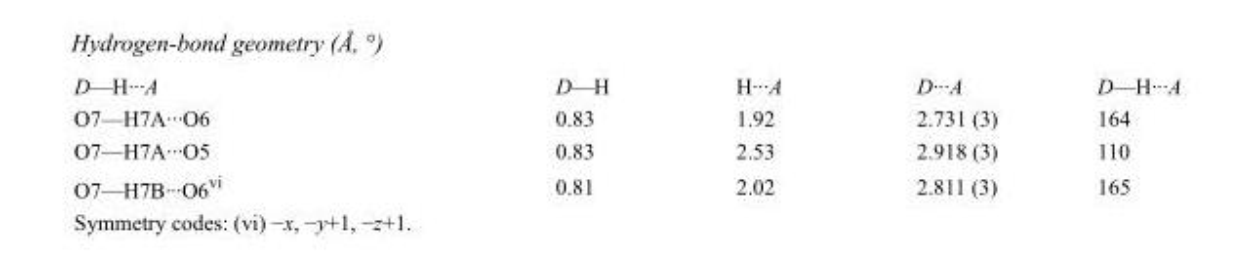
<table><tbody><tr><td>D—H···A</td><td>D—H</td><td>H···A</td><td>D···A</td><td>D—H···A</td></tr><tr><td>O7—H7A···O6</td><td>0.83</td><td>1.92</td><td>2.731 (3)</td><td>164</td></tr><tr><td>O7—H7A···O5</td><td>0.83</td><td>2.53</td><td>2.918 (3)</td><td>110</td></tr><tr><td>O7—H7B···O6<sup>vi</sup></td><td>0.81</td><td>2.02</td><td>2.811 (3)</td><td>165</td></tr></tbody></table>